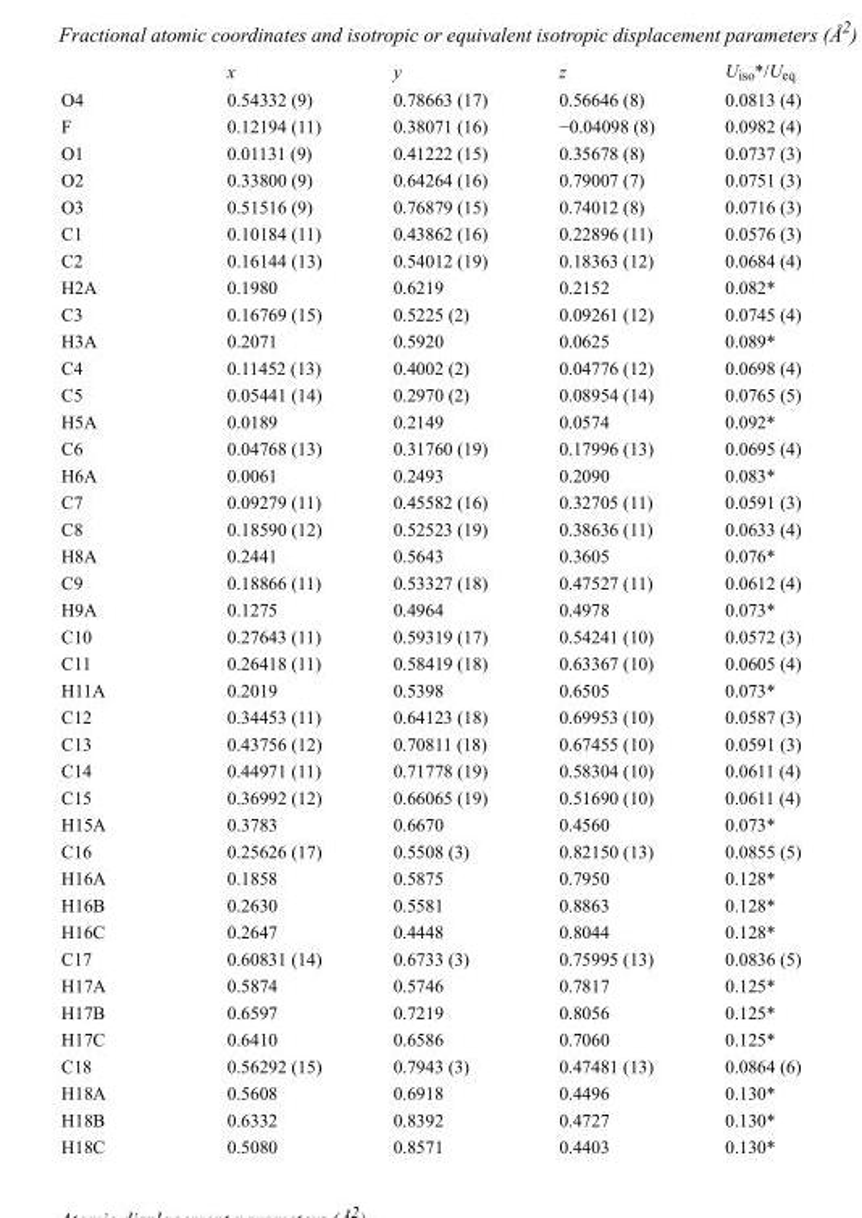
<table><thead><tr><td></td><td>x</td><td>y</td><td>z</td><td>U<sub>iso</sub>*/U<sub>eq</sub></td></tr></thead><tbody><tr><td>O4</td><td>0.54332 (9)</td><td>0.78663 (17)</td><td>0.56646 (8)</td><td>0.0813 (4)</td></tr><tr><td>F</td><td>0.12194 (11)</td><td>0.38071 (16)</td><td>−0.04098 (8)</td><td>0.0982 (4)</td></tr><tr><td>O1</td><td>0.01131 (9)</td><td>0.41222 (15)</td><td>0.35678 (8)</td><td>0.0737 (3)</td></tr><tr><td>O2</td><td>0.33800 (9)</td><td>0.64264 (16)</td><td>0.79007 (7)</td><td>0.0751 (3)</td></tr><tr><td>O3</td><td>0.51516 (9)</td><td>0.76879 (15)</td><td>0.74012 (8)</td><td>0.0716 (3)</td></tr><tr><td>C1</td><td>0.10184 (11)</td><td>0.43862 (16)</td><td>0.22896 (11)</td><td>0.0576 (3)</td></tr><tr><td>C2</td><td>0.16144 (13)</td><td>0.54012 (19)</td><td>0.18363 (12)</td><td>0.0684 (4)</td></tr><tr><td>H2A</td><td>0.1980</td><td>0.6219</td><td>0.2152</td><td>0.082*</td></tr><tr><td>C3</td><td>0.16769 (15)</td><td>0.5225 (2)</td><td>0.09261 (12)</td><td>0.0745 (4)</td></tr><tr><td>H3A</td><td>0.2071</td><td>0.5920</td><td>0.0625</td><td>0.089*</td></tr><tr><td>C4</td><td>0.11452 (13)</td><td>0.4002 (2)</td><td>0.04776 (12)</td><td>0.0698 (4)</td></tr><tr><td>C5</td><td>0.05441 (14)</td><td>0.2970 (2)</td><td>0.08954 (14)</td><td>0.0765 (5)</td></tr><tr><td>H5A</td><td>0.0189</td><td>0.2149</td><td>0.0574</td><td>0.092*</td></tr><tr><td>C6</td><td>0.04768 (13)</td><td>0.31760 (19)</td><td>0.17996 (13)</td><td>0.0695 (4)</td></tr><tr><td>H6A</td><td>0.0061</td><td>0.2493</td><td>0.2090</td><td>0.083*</td></tr><tr><td>C7</td><td>0.09279 (11)</td><td>0.45582 (16)</td><td>0.32705 (11)</td><td>0.0591 (3)</td></tr><tr><td>C8</td><td>0.18590 (12)</td><td>0.52523 (19)</td><td>0.38636 (11)</td><td>0.0633 (4)</td></tr><tr><td>H8A</td><td>0.2441</td><td>0.5643</td><td>0.3605</td><td>0.076*</td></tr><tr><td>C9</td><td>0.18866 (11)</td><td>0.53327 (18)</td><td>0.47527 (11)</td><td>0.0612 (4)</td></tr><tr><td>H9A</td><td>0.1275</td><td>0.4964</td><td>0.4978</td><td>0.073*</td></tr><tr><td>C10</td><td>0.27643 (11)</td><td>0.59319 (17)</td><td>0.54241 (10)</td><td>0.0572 (3)</td></tr><tr><td>C11</td><td>0.26418 (11)</td><td>0.58419 (18)</td><td>0.63367 (10)</td><td>0.0605 (4)</td></tr><tr><td>H11A</td><td>0.2019</td><td>0.5398</td><td>0.6505</td><td>0.073*</td></tr><tr><td>C12</td><td>0.34453 (11)</td><td>0.64123 (18)</td><td>0.69953 (10)</td><td>0.0587 (3)</td></tr><tr><td>C13</td><td>0.43756 (12)</td><td>0.70811 (18)</td><td>0.67455 (10)</td><td>0.0591 (3)</td></tr><tr><td>C14</td><td>0.44971 (11)</td><td>0.71778 (19)</td><td>0.58304 (10)</td><td>0.0611 (4)</td></tr><tr><td>C15</td><td>0.36992 (12)</td><td>0.66065 (19)</td><td>0.51690 (10)</td><td>0.0611 (4)</td></tr><tr><td>H15A</td><td>0.3783</td><td>0.6670</td><td>0.4560</td><td>0.073*</td></tr><tr><td>C16</td><td>0.25626 (17)</td><td>0.5508 (3)</td><td>0.82150 (13)</td><td>0.0855 (5)</td></tr><tr><td>H16A</td><td>0.1858</td><td>0.5875</td><td>0.7950</td><td>0.128*</td></tr><tr><td>H16B</td><td>0.2630</td><td>0.5581</td><td>0.8863</td><td>0.128*</td></tr><tr><td>H16C</td><td>0.2647</td><td>0.4448</td><td>0.8044</td><td>0.128*</td></tr><tr><td>C17</td><td>0.60831 (14)</td><td>0.6733 (3)</td><td>0.75995 (13)</td><td>0.0836 (5)</td></tr><tr><td>H17A</td><td>0.5874</td><td>0.5746</td><td>0.7817</td><td>0.125*</td></tr><tr><td>H17B</td><td>0.6597</td><td>0.7219</td><td>0.8056</td><td>0.125*</td></tr><tr><td>H17C</td><td>0.6410</td><td>0.6586</td><td>0.7060</td><td>0.125*</td></tr><tr><td>C18</td><td>0.56292 (15)</td><td>0.7943 (3)</td><td>0.47481 (13)</td><td>0.0864 (6)</td></tr><tr><td>H18A</td><td>0.5608</td><td>0.6918</td><td>0.4496</td><td>0.130*</td></tr><tr><td>H18B</td><td>0.6332</td><td>0.8392</td><td>0.4727</td><td>0.130*</td></tr><tr><td>H18C</td><td>0.5080</td><td>0.8571</td><td>0.4403</td><td>0.130*</td></tr></tbody></table>